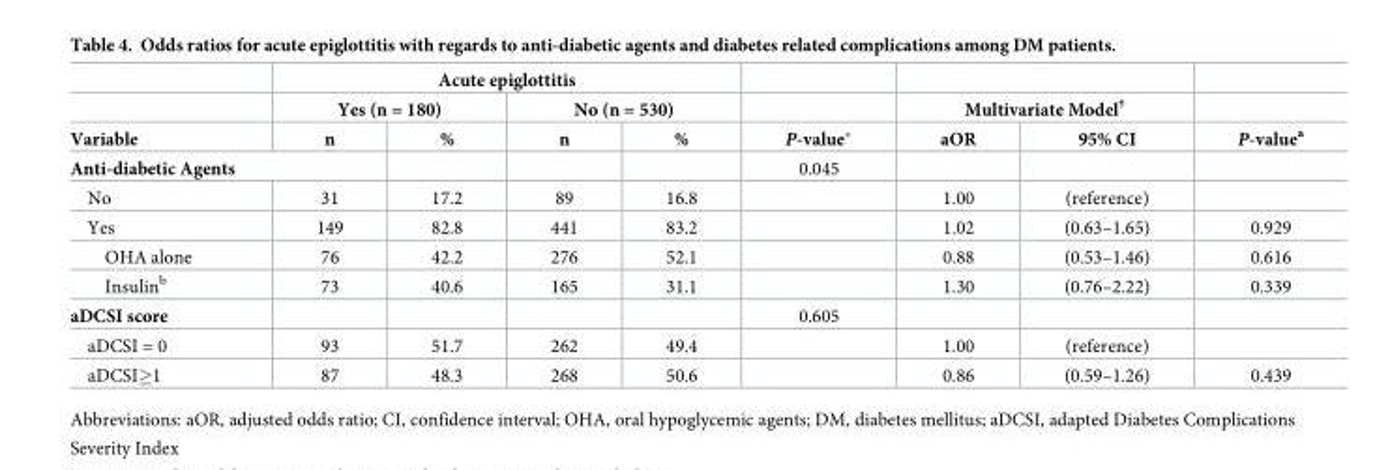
<table><thead><tr><td rowspan="3">Variable</td><td colspan="4">Acute epiglottitis</td><td rowspan="3">P-value*</td><td></td><td></td><td rowspan="3">P-value<sup>a</sup></td></tr><tr><td colspan="2">Yes (n = 180)</td><td colspan="2">No (n = 530)</td><td colspan="2">Multivariate Model<sup>†</sup></td></tr><tr><td>n</td><td>%</td><td>n</td><td>%</td><td>aOR</td><td>95% CI</td></tr></thead><tbody><tr><td colspan="2">Anti-diabetic Agents</td><td></td><td></td><td></td><td>0.045</td><td></td><td></td><td></td></tr><tr><td>No</td><td>31</td><td>17.2</td><td>89</td><td>16.8</td><td></td><td>1.00</td><td>(reference)</td><td></td></tr><tr><td>Yes</td><td>149</td><td>82.8</td><td>441</td><td>83.2</td><td></td><td>1.02</td><td>(0.63–1.65)</td><td>0.929</td></tr><tr><td>OHA alone</td><td>76</td><td>42.2</td><td>276</td><td>52.1</td><td></td><td>0.88</td><td>(0.53–1.46)</td><td>0.616</td></tr><tr><td>Insulin<sup>b</sup></td><td>73</td><td>40.6</td><td>165</td><td>31.1</td><td></td><td>1.30</td><td>(0.76–2.22)</td><td>0.339</td></tr><tr><td>aDCSI score</td><td></td><td></td><td></td><td></td><td>0.605</td><td></td><td></td><td></td></tr><tr><td>aDCSI = 0</td><td>93</td><td>51.7</td><td>262</td><td>49.4</td><td></td><td>1.00</td><td>(reference)</td><td></td></tr><tr><td>aDCSI≥1</td><td>87</td><td>48.3</td><td>268</td><td>50.6</td><td></td><td>0.86</td><td>(0.59–1.26)</td><td>0.439</td></tr></tbody></table>